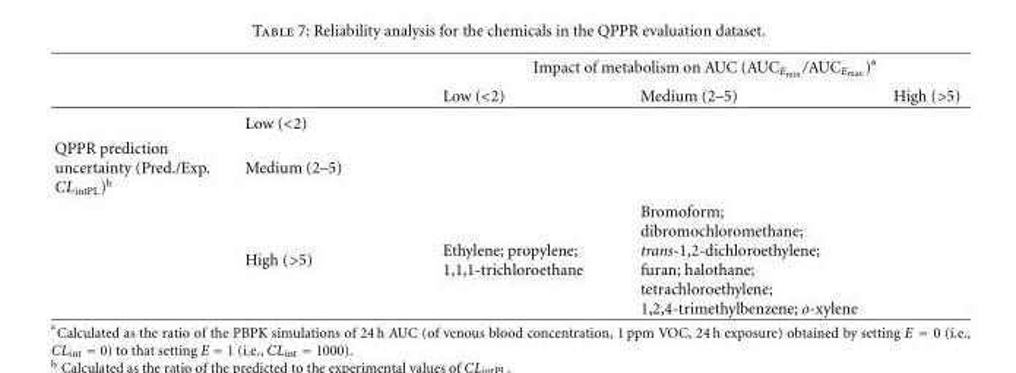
<table><thead><tr><td rowspan="2"></td><td rowspan="2"></td><td colspan="3">Impact of metabolism on AUC (AUCEmin/AUCEmax)a</td></tr><tr><td>Low (&lt;2)</td><td>Medium (2–5)</td><td>High (&gt;5)</td></tr></thead><tbody><tr><td></td><td>Low (&lt;2)</td><td></td><td></td><td></td></tr><tr><td rowspan="2">QPPR prediction uncertainty (Pred./Exp. CL<sub>intPL</sub>)<sup>b</sup></td><td>Medium (2–5)</td><td></td><td></td><td></td></tr><tr><td>High (&gt;5)</td><td>Ethylene; propylene; 1,1,1-trichloroethane</td><td>Bromoform; dibromochloromethane; trans-1,2-dichloroethylene; furan; halothane; tetrachloroethylene; 1,2,4-trimethylbenzene; o-xylene</td><td></td></tr></tbody></table>